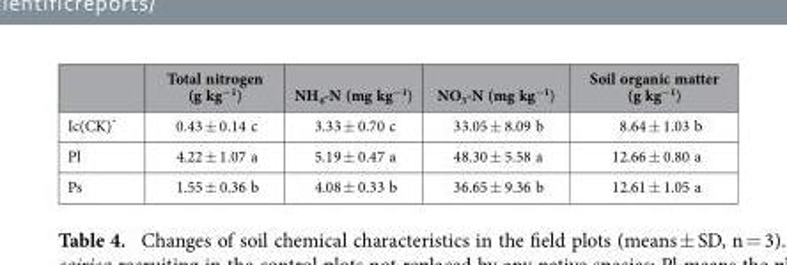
<table><thead><tr><td></td><td>Total nitrogen (g kg<sup>−1</sup>)</td><td>NH<sub>4</sub>-N (mg kg<sup>−1</sup>)</td><td>NO<sub>3</sub>-N (mg kg<sup>−1</sup>)</td><td>Soil organic matter (g kg<sup>−1</sup>)</td></tr></thead><tbody><tr><td>Ic(CK)*</td><td>0.43 ± 0.14 c</td><td>3.33 ± 0.70 c</td><td>33.05 ± 8.09 b</td><td>8.64 ± 1.03 b</td></tr><tr><td>Pl</td><td>4.22 ± 1.07 a</td><td>5.19 ± 0.47 a</td><td>48.30 ± 5.58 a</td><td>12.66 ± 0.80 a</td></tr><tr><td>Ps</td><td>1.55 ± 0.36 b</td><td>4.08 ± 0.33 b</td><td>36.65 ± 9.36 b</td><td>12.61 ± 1.05 a</td></tr></tbody></table>